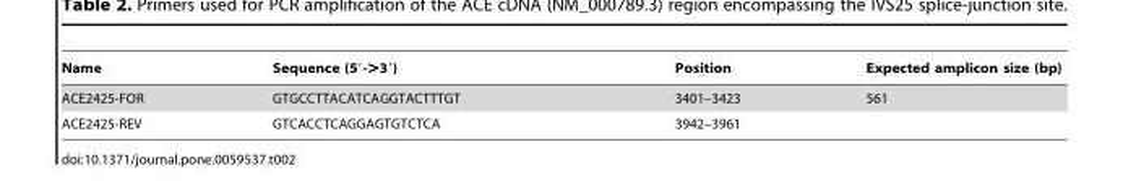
<table><thead><tr><td>Name</td><td>Sequence (5′-&gt;3′)</td><td>Position</td><td>Expected amplicon size (bp)</td></tr></thead><tbody><tr><td>ACE2425-FOR</td><td>GTGCCTTACATCAGGTACTTTGT</td><td>3401–3423</td><td>561</td></tr><tr><td>ACE2425-REV</td><td>GTCACCTCAGGAGTGTCTCA</td><td>3942–3961</td><td></td></tr></tbody></table>